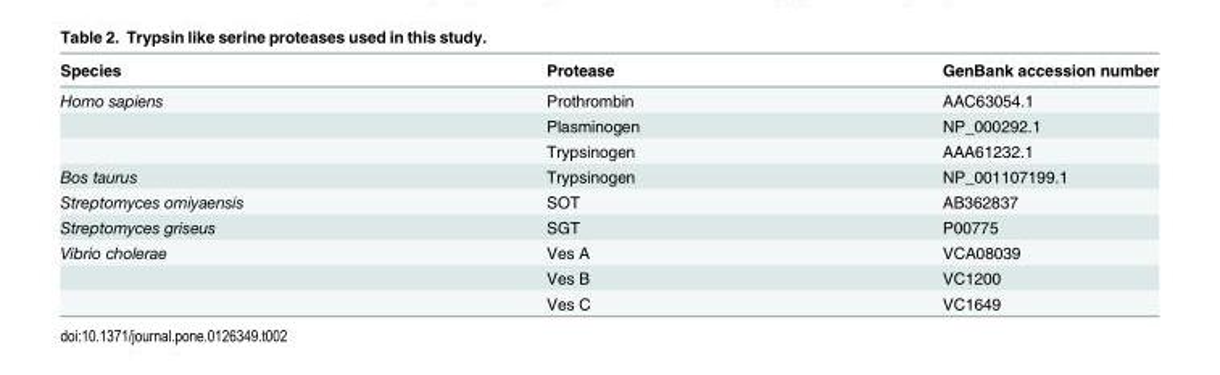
<table><thead><tr><td>Species</td><td>Protease</td><td>GenBank accession number</td></tr></thead><tbody><tr><td rowspan="3">Homo sapiens</td><td>Prothrombin</td><td>AAC63054.1</td></tr><tr><td>Plasminogen</td><td>NP_000292.1</td></tr><tr><td>Trypsinogen</td><td>AAA61232.1</td></tr><tr><td>Bos taurus</td><td>Trypsinogen</td><td>NP_001107199.1</td></tr><tr><td>Streptomyces omiyaensis</td><td>SOT</td><td>AB362837</td></tr><tr><td>Streptomyces griseus</td><td>SGT</td><td>P00775</td></tr><tr><td rowspan="3">Vibrio cholerae</td><td>Ves A</td><td>VCA08039</td></tr><tr><td>Ves B</td><td>VC1200</td></tr><tr><td>Ves C</td><td>VC1649</td></tr></tbody></table>